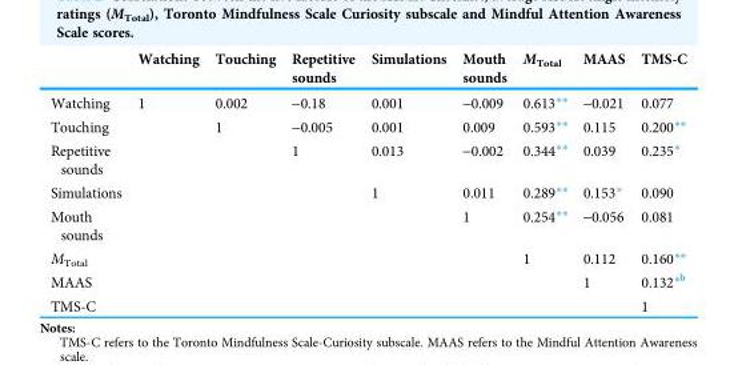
<table><thead><tr><td></td><td>Watching</td><td>Touching</td><td>Repetitive sounds</td><td>Simulations</td><td>Mouth sounds</td><td>M<sub>Total</sub></td><td>MAAS</td><td>TMS-C</td></tr></thead><tbody><tr><td>Watching</td><td>1</td><td>0.002</td><td>-0.18</td><td>0.001</td><td>-0.009</td><td>0.613**</td><td>-0.021</td><td>0.077</td></tr><tr><td>Touching</td><td></td><td>1</td><td>-0.005</td><td>0.001</td><td>0.009</td><td>0.593**</td><td>0.115</td><td>0.200**</td></tr><tr><td>Repetitive sounds</td><td></td><td></td><td>1</td><td>0.013</td><td>-0.002</td><td>0.344**</td><td>0.039</td><td>0.235*</td></tr><tr><td>Simulations</td><td></td><td></td><td></td><td>1</td><td>0.011</td><td>0.289**</td><td>0.153*</td><td>0.090</td></tr><tr><td>Mouth sounds</td><td></td><td></td><td></td><td></td><td>1</td><td>0.254**</td><td>-0.056</td><td>0.081</td></tr><tr><td>M<sub>Total</sub></td><td></td><td></td><td></td><td></td><td></td><td>1</td><td>0.112</td><td>0.160**</td></tr><tr><td>MAAS</td><td></td><td></td><td></td><td></td><td></td><td></td><td>1</td><td>0.132*<sup>b</sup></td></tr><tr><td>TMS-C</td><td></td><td></td><td></td><td></td><td></td><td></td><td></td><td>1</td></tr></tbody></table>